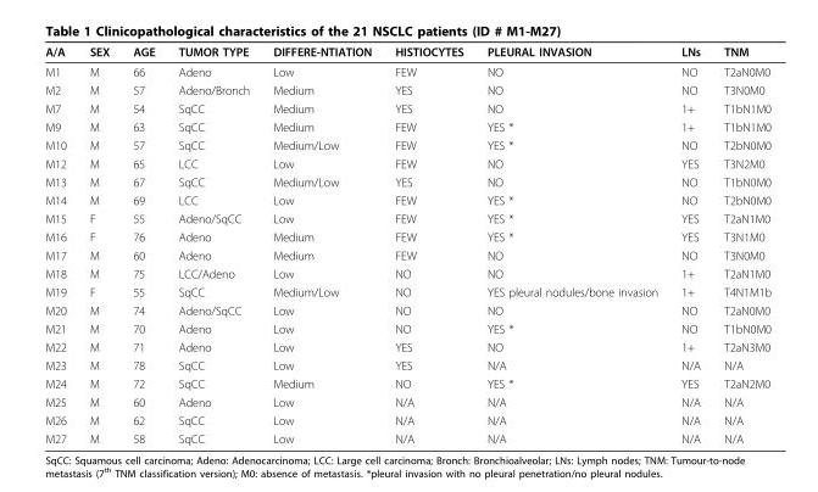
<table><thead><tr><td>A/A</td><td>SEX</td><td>AGE</td><td>TUMOR TYPE</td><td>DIFFERE-NTIATION</td><td>HISTIOCYTES</td><td>PLEURAL INVASION</td><td>LNs</td><td>TNM</td></tr></thead><tbody><tr><td>M1</td><td>M</td><td>66</td><td>Adeno</td><td>Low</td><td>FEW</td><td>NO</td><td>NO</td><td>T2aN0M0</td></tr><tr><td>M2</td><td>M</td><td>57</td><td>Adeno/Bronch</td><td>Medium</td><td>YES</td><td>NO</td><td>NO</td><td>T3N0M0</td></tr><tr><td>M7</td><td>M</td><td>54</td><td>SqCC</td><td>Medium</td><td>YES</td><td>NO</td><td>1+</td><td>T1bN1M0</td></tr><tr><td>M9</td><td>M</td><td>63</td><td>SqCC</td><td>Medium</td><td>FEW</td><td>YES *</td><td>1+</td><td>T1bN1M0</td></tr><tr><td>M10</td><td>M</td><td>57</td><td>SqCC</td><td>Medium/Low</td><td>FEW</td><td>YES *</td><td>NO</td><td>T2bN0M0</td></tr><tr><td>M12</td><td>M</td><td>65</td><td>LCC</td><td>Low</td><td>FEW</td><td>NO</td><td>YES</td><td>T3N2M0</td></tr><tr><td>M13</td><td>M</td><td>67</td><td>SqCC</td><td>Medium/Low</td><td>YES</td><td>NO</td><td>NO</td><td>T1bN0M0</td></tr><tr><td>M14</td><td>M</td><td>69</td><td>LCC</td><td>Low</td><td>FEW</td><td>YES *</td><td>NO</td><td>T2bN0M0</td></tr><tr><td>M15</td><td>F</td><td>55</td><td>Adeno/SqCC</td><td>Low</td><td>FEW</td><td>YES *</td><td>YES</td><td>T2aN1M0</td></tr><tr><td>M16</td><td>F</td><td>76</td><td>Adeno</td><td>Medium</td><td>FEW</td><td>YES *</td><td>YES</td><td>T3N1M0</td></tr><tr><td>M17</td><td>M</td><td>60</td><td>Adeno</td><td>Medium</td><td>FEW</td><td>NO</td><td>NO</td><td>T3N0M0</td></tr><tr><td>M18</td><td>M</td><td>75</td><td>LCC/Adeno</td><td>Low</td><td>NO</td><td>NO</td><td>1+</td><td>T2aN1M0</td></tr><tr><td>M19</td><td>F</td><td>55</td><td>SqCC</td><td>Medium/Low</td><td>NO</td><td>YES pleural nodules/bone invasion</td><td>1+</td><td>T4N1M1b</td></tr><tr><td>M20</td><td>M</td><td>74</td><td>Adeno/SqCC</td><td>Low</td><td>NO</td><td>NO</td><td>NO</td><td>T2aN0M0</td></tr><tr><td>M21</td><td>M</td><td>70</td><td>Adeno</td><td>Low</td><td>NO</td><td>YES *</td><td>NO</td><td>T1bN0M0</td></tr><tr><td>M22</td><td>M</td><td>71</td><td>Adeno</td><td>Low</td><td>YES</td><td>NO</td><td>1+</td><td>T2aN3M0</td></tr><tr><td>M23</td><td>M</td><td>78</td><td>SqCC</td><td>Low</td><td>YES</td><td>N/A</td><td>N/A</td><td>N/A</td></tr><tr><td>M24</td><td>M</td><td>72</td><td>SqCC</td><td>Medium</td><td>NO</td><td>YES *</td><td>YES</td><td>T2aN2M0</td></tr><tr><td>M25</td><td>M</td><td>60</td><td>Adeno</td><td>Low</td><td>N/A</td><td>N/A</td><td>N/A</td><td>N/A</td></tr><tr><td>M26</td><td>M</td><td>62</td><td>SqCC</td><td>Low</td><td>N/A</td><td>N/A</td><td>N/A</td><td>N/A</td></tr><tr><td>M27</td><td>M</td><td>58</td><td>SqCC</td><td>Low</td><td>N/A</td><td>N/A</td><td>N/A</td><td>N/A</td></tr></tbody></table>